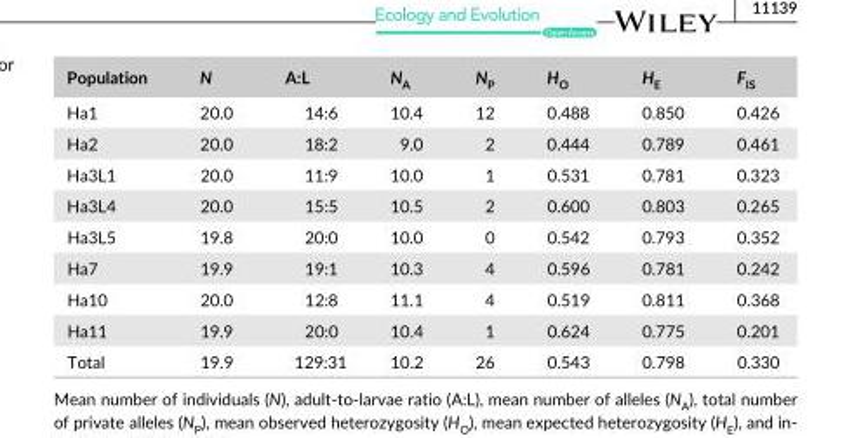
<table><thead><tr><td>Population</td><td>N</td><td>A:L</td><td>N<sub>A</sub></td><td>N<sub>P</sub></td><td>H<sub>O</sub></td><td>H<sub>E</sub></td><td>F<sub>IS</sub></td></tr></thead><tbody><tr><td>Ha1</td><td>20.0</td><td>14:6</td><td>10.4</td><td>12</td><td>0.488</td><td>0.850</td><td>0.426</td></tr><tr><td>Ha2</td><td>20.0</td><td>18:2</td><td>9.0</td><td>2</td><td>0.444</td><td>0.789</td><td>0.461</td></tr><tr><td>Ha3L1</td><td>20.0</td><td>11:9</td><td>10.0</td><td>1</td><td>0.531</td><td>0.781</td><td>0.323</td></tr><tr><td>Ha3L4</td><td>20.0</td><td>15:5</td><td>10.5</td><td>2</td><td>0.600</td><td>0.803</td><td>0.265</td></tr><tr><td>Ha3L5</td><td>19.8</td><td>20:0</td><td>10.0</td><td>0</td><td>0.542</td><td>0.793</td><td>0.352</td></tr><tr><td>Ha7</td><td>19.9</td><td>19:1</td><td>10.3</td><td>4</td><td>0.596</td><td>0.781</td><td>0.242</td></tr><tr><td>Ha10</td><td>20.0</td><td>12:8</td><td>11.1</td><td>4</td><td>0.519</td><td>0.811</td><td>0.368</td></tr><tr><td>Ha11</td><td>19.9</td><td>20:0</td><td>10.4</td><td>1</td><td>0.624</td><td>0.775</td><td>0.201</td></tr><tr><td>Total</td><td>19.9</td><td>129:31</td><td>10.2</td><td>26</td><td>0.543</td><td>0.798</td><td>0.330</td></tr></tbody></table>